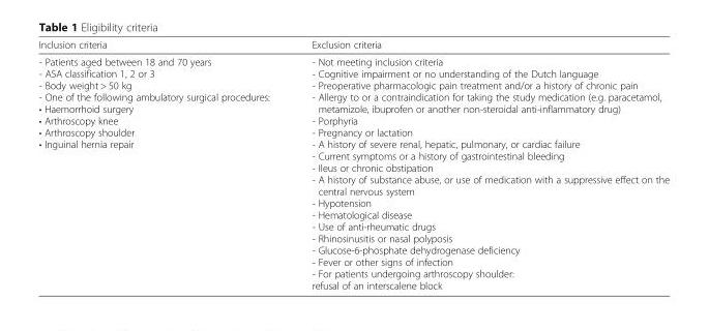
<table><thead><tr><td>Inclusion criteria</td><td>Exclusion criteria</td></tr></thead><tbody><tr><td>- Patients aged between 18 and 70 years - ASA classification 1, 2 or 3 - Body weight &gt; 50 kg - One of the following ambulatory surgical procedures: • Haemorrhoid surgery • Arthroscopy knee • Arthroscopy shoulder • Inguinal hernia repair</td><td>- Not meeting inclusion criteria - Cognitive impairment or no understanding of the Dutch language - Preoperative pharmacologic pain treatment and/or a history of chronic pain - Allergy to or a contraindication for taking the study medication (e.g. paracetamol, metamizole, ibuprofen or another non-steroidal anti-inflammatory drug) - Porphyria - Pregnancy or lactation - A history of severe renal, hepatic, pulmonary, or cardiac failure - Current symptoms or a history of gastrointestinal bleeding - Ileus or chronic obstipation - A history of substance abuse, or use of medication with a suppressive effect on the central nervous system - Hypotension - Hematological disease - Use of anti-rheumatic drugs - Rhinosinusitis or nasal polyposis - Glucose-6-phosphate dehydrogenase deficiency - Fever or other signs of infection - For patients undergoing arthroscopy shoulder: refusal of an interscalene block</td></tr></tbody></table>